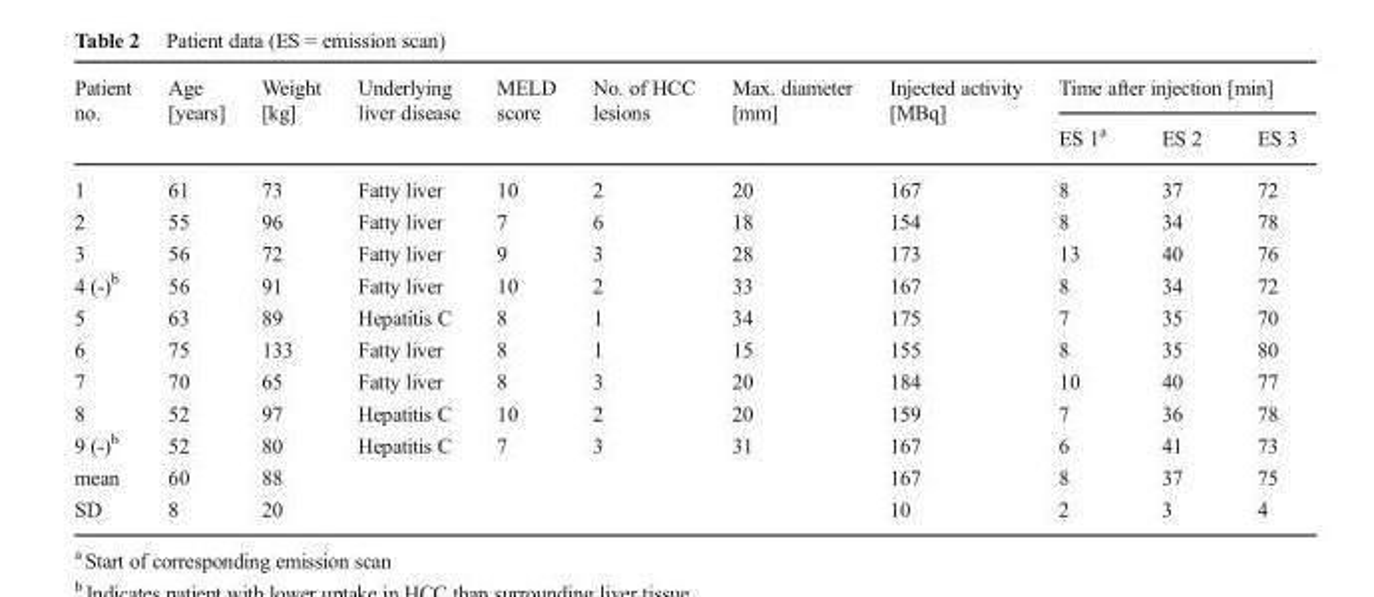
<table><thead><tr><td rowspan="2">Patient no.</td><td rowspan="2">Age [years]</td><td rowspan="2">Weight [kg]</td><td rowspan="2">Underlying liver disease</td><td rowspan="2">MELD score</td><td rowspan="2">No. of HCC lesions</td><td rowspan="2">Max. diameter [mm]</td><td rowspan="2">Injected activity [MBq]</td><td colspan="3">Time after injection [min]</td></tr><tr><td>ES 1<sup>a</sup></td><td>ES 2</td><td>ES 3</td></tr></thead><tbody><tr><td>1</td><td>61</td><td>73</td><td>Fatty liver</td><td>10</td><td>2</td><td>20</td><td>167</td><td>8</td><td>37</td><td>72</td></tr><tr><td>2</td><td>55</td><td>96</td><td>Fatty liver</td><td>7</td><td>6</td><td>18</td><td>154</td><td>8</td><td>34</td><td>78</td></tr><tr><td>3</td><td>56</td><td>72</td><td>Fatty liver</td><td>9</td><td>3</td><td>28</td><td>173</td><td>13</td><td>40</td><td>76</td></tr><tr><td>4 (-)<sup>b</sup></td><td>56</td><td>91</td><td>Fatty liver</td><td>10</td><td>2</td><td>33</td><td>167</td><td>8</td><td>34</td><td>72</td></tr><tr><td>5</td><td>63</td><td>89</td><td>Hepatitis C</td><td>8</td><td>1</td><td>34</td><td>175</td><td>7</td><td>35</td><td>70</td></tr><tr><td>6</td><td>75</td><td>133</td><td>Fatty liver</td><td>8</td><td>1</td><td>15</td><td>155</td><td>8</td><td>35</td><td>80</td></tr><tr><td>7</td><td>70</td><td>65</td><td>Fatty liver</td><td>8</td><td>3</td><td>20</td><td>184</td><td>10</td><td>40</td><td>77</td></tr><tr><td>8</td><td>52</td><td>97</td><td>Hepatitis C</td><td>10</td><td>2</td><td>20</td><td>159</td><td>7</td><td>36</td><td>78</td></tr><tr><td>9 (-)<sup>b</sup></td><td>52</td><td>80</td><td>Hepatitis C</td><td>7</td><td>3</td><td>31</td><td>167</td><td>6</td><td>41</td><td>73</td></tr><tr><td>mean</td><td>60</td><td>88</td><td></td><td></td><td></td><td></td><td>167</td><td>8</td><td>37</td><td>75</td></tr><tr><td>SD</td><td>8</td><td>20</td><td></td><td></td><td></td><td></td><td>10</td><td>2</td><td>3</td><td>4</td></tr></tbody></table>